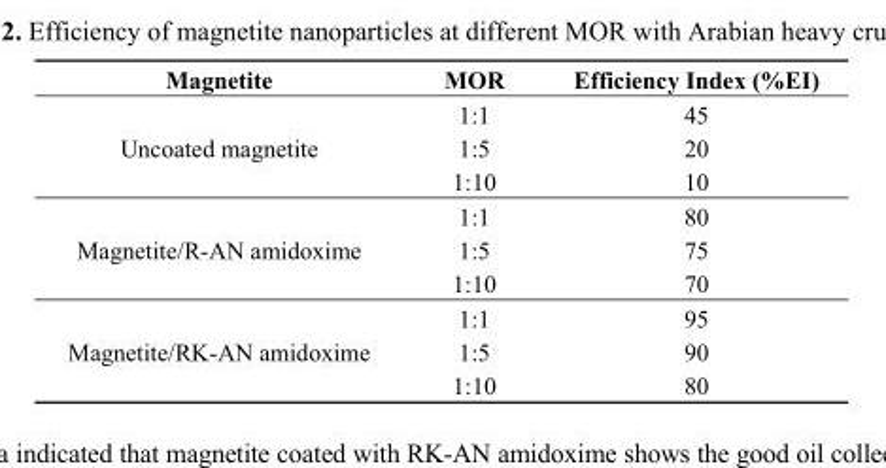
<table><thead><tr><td>Magnetite</td><td>MOR</td><td>Efficiency Index (%EI)</td></tr></thead><tbody><tr><td rowspan="3">Uncoated magnetite</td><td>1:1</td><td>45</td></tr><tr><td>1:5</td><td>20</td></tr><tr><td>1:10</td><td>10</td></tr><tr><td rowspan="3">Magnetite/R-AN amidoxime</td><td>1:1</td><td>80</td></tr><tr><td>1:5</td><td>75</td></tr><tr><td>1:10</td><td>70</td></tr><tr><td rowspan="3">Magnetite/RK-AN amidoxime</td><td>1:1</td><td>95</td></tr><tr><td>1:5</td><td>90</td></tr><tr><td>1:10</td><td>80</td></tr></tbody></table>